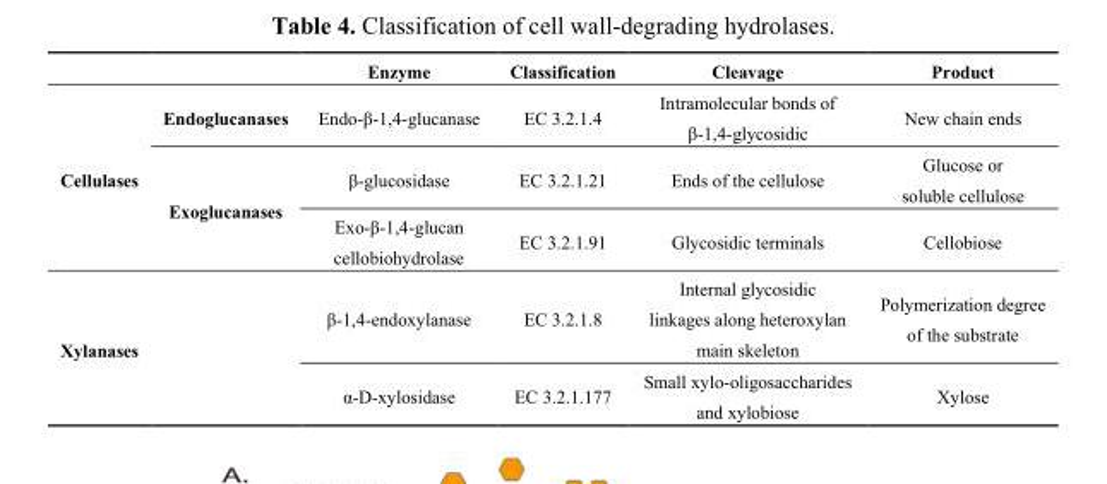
<table><thead><tr><td></td><td></td><td>Enzyme</td><td>Classification</td><td>Cleavage</td><td>Product</td></tr></thead><tbody><tr><td rowspan="3">Cellulases</td><td>Endoglucanases</td><td>Endo-β-1,4-glucanase</td><td>EC 3.2.1.4</td><td>Intramolecular bonds of β-1,4-glycosidic</td><td>New chain ends</td></tr><tr><td rowspan="2">Exoglucanases</td><td>β-glucosidase</td><td>EC 3.2.1.21</td><td>Ends of the cellulose</td><td>Glucose or soluble cellulose</td></tr><tr><td>Exo-β-1,4-glucan cellobiohydrolase</td><td>EC 3.2.1.91</td><td>Glycosidic terminals</td><td>Cellobiose</td></tr><tr><td rowspan="2">Xylanases</td><td rowspan="2"></td><td>β-1,4-endoxylanase</td><td>EC 3.2.1.8</td><td>Internal glycosidic linkages along heteroxylan main skeleton</td><td>Polymerization degree of the substrate</td></tr><tr><td>α-D-xylosidase</td><td>EC 3.2.1.177</td><td>Small xylo-oligosaccharides and xylobiose</td><td>Xylose</td></tr></tbody></table>